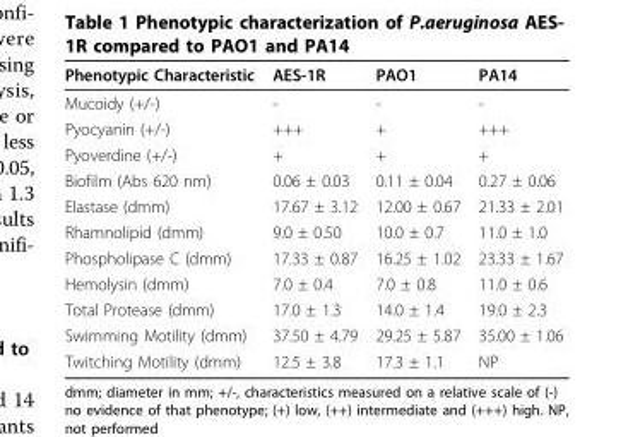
<table><thead><tr><td>Phenotypic Characteristic</td><td>AES-1R</td><td>PAO1</td><td>PA14</td></tr></thead><tbody><tr><td>Mucoidy (+/-)</td><td>-</td><td>-</td><td>-</td></tr><tr><td>Pyocyanin (+/-)</td><td>+++</td><td>+</td><td>+++</td></tr><tr><td>Pyoverdine (+/-)</td><td>+</td><td>+</td><td>+</td></tr><tr><td>Biofilm (Abs 620 nm)</td><td>0.06 ± 0.03</td><td>0.11 ± 0.04</td><td>0.27 ± 0.06</td></tr><tr><td>Elastase (dmm)</td><td>17.67 ± 3.12</td><td>12.00 ± 0.67</td><td>21.33 ± 2.01</td></tr><tr><td>Rhamnolipid (dmm)</td><td>9.0 ± 0.50</td><td>10.0 ± 0.7</td><td>11.0 ± 1.0</td></tr><tr><td>Phospholipase C (dmm)</td><td>17.33 ± 0.87</td><td>16.25 ± 1.02</td><td>23.33 ± 1.67</td></tr><tr><td>Hemolysin (dmm)</td><td>7.0 ± 0.4</td><td>7.0 ± 0.8</td><td>11.0 ± 0.6</td></tr><tr><td>Total Protease (dmm)</td><td>17.0 ± 1.3</td><td>14.0 ± 1.4</td><td>19.0 ± 2.3</td></tr><tr><td>Swimming Motility (dmm)</td><td>37.50 ± 4.79</td><td>29.25 ± 5.87</td><td>35.00 ± 1.06</td></tr><tr><td>Twitching Motility (dmm)</td><td>12.5 ± 3.8</td><td>17.3 ± 1.1</td><td>NP</td></tr></tbody></table>